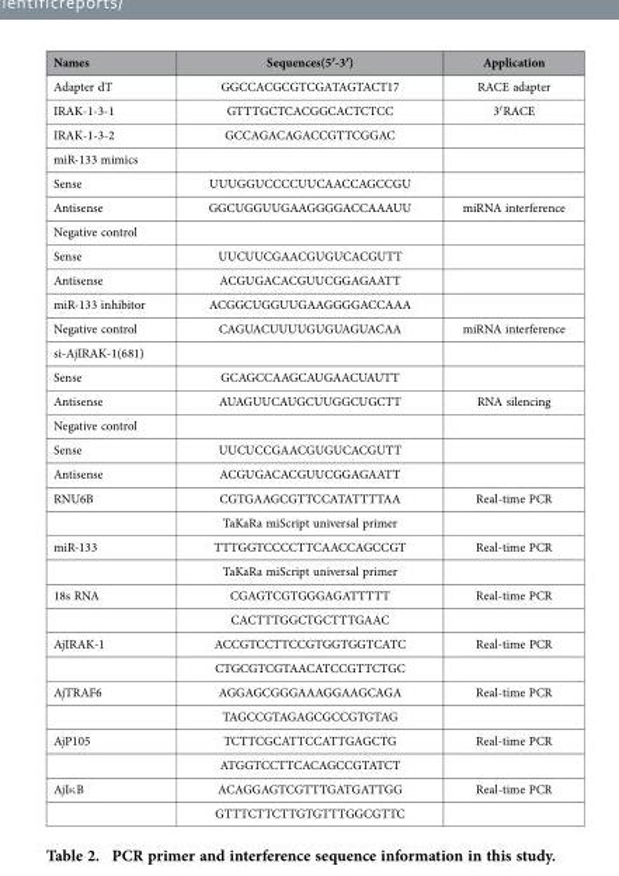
<table><thead><tr><td>Names</td><td>Sequences(5′-3′)</td><td>Application</td></tr></thead><tbody><tr><td>Adapter dT</td><td>GGCCACGCGTCGATAGTACT17</td><td>RACE adapter</td></tr><tr><td>IRAK-1-3-1</td><td>GTTTGCTCACGGCACTCTCC</td><td>3′ RACE</td></tr><tr><td>IRAK-1-3-2</td><td>GCCAGACAGACCGTTCGGAC</td><td></td></tr><tr><td colspan="3">miR-133 mimics</td></tr><tr><td>Sense</td><td>UUUGGUCCCCUUCAACCAGCCGU</td><td></td></tr><tr><td>Antisense</td><td>GGCUGGUUGAAGGGGACCAAAUU</td><td>miRNA interference</td></tr><tr><td colspan="3">Negative control</td></tr><tr><td>Sense</td><td>UUCUUCGAACGUGUCACGUTT</td><td></td></tr><tr><td>Antisense</td><td>ACGUGACACGUUCGGAGAATT</td><td></td></tr><tr><td>miR-133 inhibitor</td><td>ACGGCUGGUUGAAGGGGACCAAA</td><td></td></tr><tr><td>Negative control</td><td>CAGUACUUUUGUGUAGUACAA</td><td>miRNA interference</td></tr><tr><td colspan="3">si-AjIRAK-1(681)</td></tr><tr><td>Sense</td><td>GCAGCCAAGCAUGAACUAUTT</td><td></td></tr><tr><td>Antisense</td><td>AUAGUUCAUGCUUGGCUGCTT</td><td>RNA silencing</td></tr><tr><td colspan="3">Negative control</td></tr><tr><td>Sense</td><td>UUCUCCGAACGUGUCACGUTT</td><td></td></tr><tr><td>Antisense</td><td>ACGUGACACGUUCGGAGAATT</td><td></td></tr><tr><td rowspan="2">RNU6B</td><td>CGTGAAGCGTTCCATATTTTAA</td><td>Real-time PCR</td></tr><tr><td>TaKaRa miScript universal primer</td><td></td></tr><tr><td rowspan="2">miR-133</td><td>TTTGGTCCCCTTCAACCAGCCGT</td><td>Real-time PCR</td></tr><tr><td>TaKaRa miScript universal primer</td><td></td></tr><tr><td rowspan="2">18s RNA</td><td>CGAGTCGTGGGAGATTTTT</td><td>Real-time PCR</td></tr><tr><td>CACTTTGGCTGCTTTGAAC</td><td></td></tr><tr><td rowspan="2">AjIRAK-1</td><td>ACCGTCCTTCCGTGGTGGTCATC</td><td>Real-time PCR</td></tr><tr><td>CTGCGTCGTAACATCCGTTCTGC</td><td></td></tr><tr><td rowspan="2">AjTRAF6</td><td>AGGAGCGGGAAAGGAAGCAGA</td><td>Real-time PCR</td></tr><tr><td>TAGCCGTAGAGCGCCGTGTAG</td><td></td></tr><tr><td rowspan="2">AjP105</td><td>TCTTCGCATTCCATTGAGCTG</td><td>Real-time PCR</td></tr><tr><td>ATGGTCCTTCACAGCCGTATCT</td><td></td></tr><tr><td rowspan="2">AjIκ B</td><td>ACAGGAGTCGTTTGATGATTGG</td><td>Real-time PCR</td></tr><tr><td>GTTTCTTCTTGTGTTTGGCGTTC</td><td></td></tr></tbody></table>